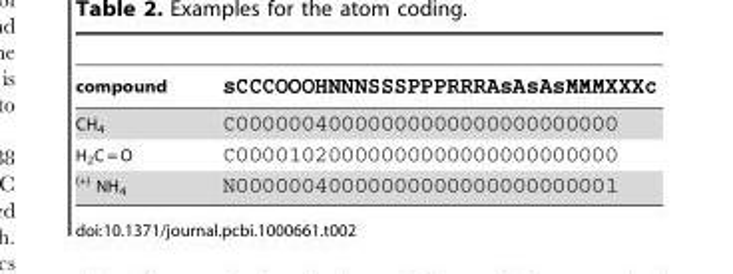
<table><thead><tr><td>compound</td><td>sCCCOOOHNNNSSSPPPRRRAsAsAsMMMXXXc</td></tr></thead><tbody><tr><td>CH<sub>4</sub></td><td>C00000040000000000000000000000</td></tr><tr><td>H<sub>2</sub>C = O</td><td>C00001020000000000000000000000</td></tr><tr><td><sup>(+)</sup> NH<sub>4</sub></td><td>N00000040000000000000000000001</td></tr></tbody></table>